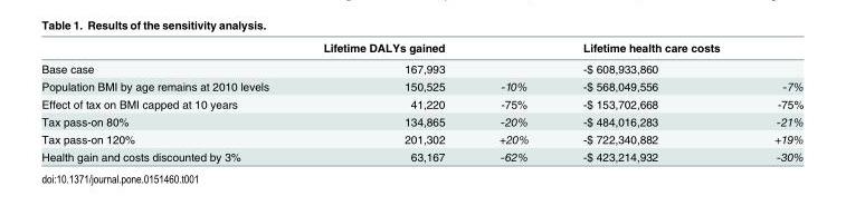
<table><thead><tr><td></td><td>Lifetime DALYs gained</td><td></td><td>Lifetime health care costs</td><td></td></tr></thead><tbody><tr><td>Base case</td><td>167,993</td><td></td><td>-$ 608,933,860</td><td></td></tr><tr><td>Population BMI by age remains at 2010 levels</td><td>150,525</td><td>-10%</td><td>-$ 568,049,556</td><td>-7%</td></tr><tr><td>Effect of tax on BMI capped at 10 years</td><td>41,220</td><td>-75%</td><td>-$ 153,702,668</td><td>-75%</td></tr><tr><td>Tax pass-on 80%</td><td>134,865</td><td>-20%</td><td>-$ 484,016,283</td><td>-21%</td></tr><tr><td>Tax pass-on 120%</td><td>201,302</td><td>+20%</td><td>-$ 722,340,882</td><td>+19%</td></tr><tr><td>Health gain and costs discounted by 3%</td><td>63,167</td><td>-62%</td><td>-$ 423,214,932</td><td>-30%</td></tr></tbody></table>